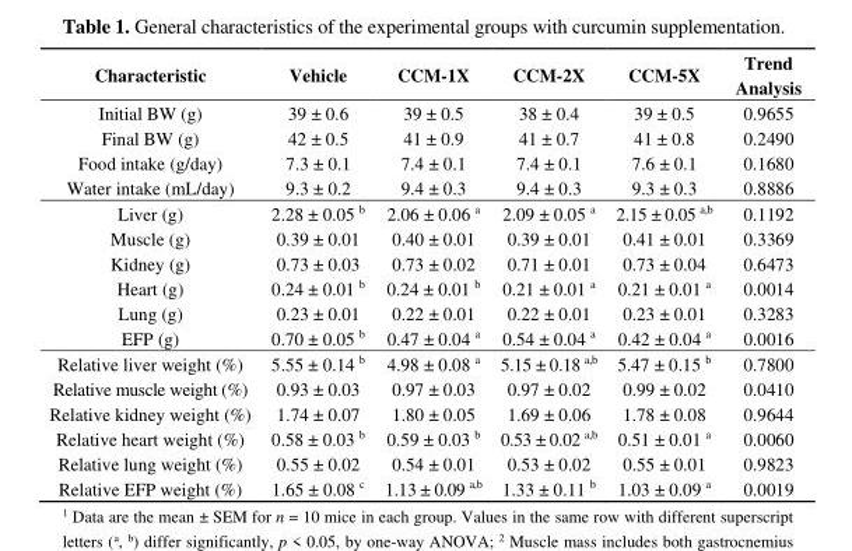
<table><thead><tr><td>Characteristic</td><td>Vehicle</td><td>CCM-1X</td><td>CCM-2X</td><td>CCM-5X</td><td>Trend Analysis</td></tr></thead><tbody><tr><td>Initial BW (g)</td><td>39 ± 0.6</td><td>39 ± 0.5</td><td>38 ± 0.4</td><td>39 ± 0.5</td><td>0.9655</td></tr><tr><td>Final BW (g)</td><td>42 ± 0.5</td><td>41 ± 0.9</td><td>41 ± 0.7</td><td>41 ± 0.8</td><td>0.2490</td></tr><tr><td>Food intake (g/day)</td><td>7.3 ± 0.1</td><td>7.4 ± 0.1</td><td>7.4 ± 0.1</td><td>7.6 ± 0.1</td><td>0.1680</td></tr><tr><td>Water intake (mL/day)</td><td>9.3 ± 0.2</td><td>9.4 ± 0.3</td><td>9.4 ± 0.3</td><td>9.3 ± 0.3</td><td>0.8886</td></tr><tr><td>Liver (g)</td><td>2.28 ± 0.05 <sup>b</sup></td><td>2.06 ± 0.06 <sup>a</sup></td><td>2.09 ± 0.05 <sup>a</sup></td><td>2.15 ± 0.05 <sup>a,b</sup></td><td>0.1192</td></tr><tr><td>Muscle (g)</td><td>0.39 ± 0.01</td><td>0.40 ± 0.01</td><td>0.39 ± 0.01</td><td>0.41 ± 0.01</td><td>0.3369</td></tr><tr><td>Kidney (g)</td><td>0.73 ± 0.03</td><td>0.73 ± 0.02</td><td>0.71 ± 0.01</td><td>0.73 ± 0.04</td><td>0.6473</td></tr><tr><td>Heart (g)</td><td>0.24 ± 0.01 <sup>b</sup></td><td>0.24 ± 0.01 <sup>b</sup></td><td>0.21 ± 0.01 <sup>a</sup></td><td>0.21 ± 0.01 <sup>a</sup></td><td>0.0014</td></tr><tr><td>Lung (g)</td><td>0.23 ± 0.01</td><td>0.22 ± 0.01</td><td>0.22 ± 0.01</td><td>0.23 ± 0.01</td><td>0.3283</td></tr><tr><td>EFP (g)</td><td>0.70 ± 0.05 <sup>b</sup></td><td>0.47 ± 0.04 <sup>a</sup></td><td>0.54 ± 0.04 <sup>a</sup></td><td>0.42 ± 0.04 <sup>a</sup></td><td>0.0016</td></tr><tr><td>Relative liver weight (%)</td><td>5.55 ± 0.14 <sup>b</sup></td><td>4.98 ± 0.08 <sup>a</sup></td><td>5.15 ± 0.18 <sup>a,b</sup></td><td>5.47 ± 0.15 <sup>b</sup></td><td>0.7800</td></tr><tr><td>Relative muscle weight (%)</td><td>0.93 ± 0.03</td><td>0.97 ± 0.03</td><td>0.97 ± 0.02</td><td>0.99 ± 0.02</td><td>0.0410</td></tr><tr><td>Relative kidney weight (%)</td><td>1.74 ± 0.07</td><td>1.80 ± 0.05</td><td>1.69 ± 0.06</td><td>1.78 ± 0.08</td><td>0.9644</td></tr><tr><td>Relative heart weight (%)</td><td>0.58 ± 0.03 <sup>b</sup></td><td>0.59 ± 0.03 <sup>b</sup></td><td>0.53 ± 0.02 <sup>a,b</sup></td><td>0.51 ± 0.01 <sup>a</sup></td><td>0.0060</td></tr><tr><td>Relative lung weight (%)</td><td>0.55 ± 0.02</td><td>0.54 ± 0.01</td><td>0.53 ± 0.02</td><td>0.55 ± 0.01</td><td>0.9823</td></tr><tr><td>Relative EFP weight (%)</td><td>1.65 ± 0.08 <sup>c</sup></td><td>1.13 ± 0.09 <sup>a,b</sup></td><td>1.33 ± 0.11 <sup>b</sup></td><td>1.03 ± 0.09 <sup>a</sup></td><td>0.0019</td></tr></tbody></table>